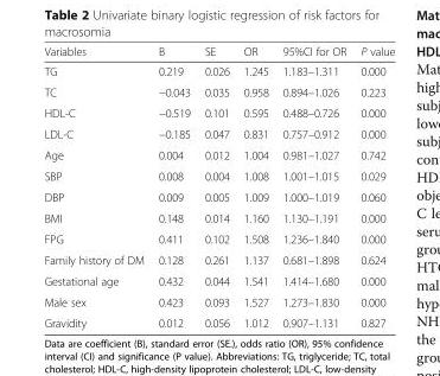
<table><thead><tr><td>Variables</td><td>B</td><td>SE</td><td>OR</td><td>95%CI for OR</td><td>P value</td></tr></thead><tbody><tr><td>TG</td><td>0.219</td><td>0.026</td><td>1.245</td><td>1.183–1.311</td><td>0.000</td></tr><tr><td>TC</td><td>−0.043</td><td>0.035</td><td>0.958</td><td>0.894–1.026</td><td>0.223</td></tr><tr><td>HDL-C</td><td>−0.519</td><td>0.101</td><td>0.595</td><td>0.488–0.726</td><td>0.000</td></tr><tr><td>LDL-C</td><td>−0.185</td><td>0.047</td><td>0.831</td><td>0.757–0.912</td><td>0.000</td></tr><tr><td>Age</td><td>0.004</td><td>0.012</td><td>1.004</td><td>0.981–1.027</td><td>0.742</td></tr><tr><td>SBP</td><td>0.008</td><td>0.004</td><td>1.008</td><td>1.001–1.015</td><td>0.029</td></tr><tr><td>DBP</td><td>0.009</td><td>0.005</td><td>1.009</td><td>1.000–1.019</td><td>0.060</td></tr><tr><td>BMI</td><td>0.148</td><td>0.014</td><td>1.160</td><td>1.130–1.191</td><td>0.000</td></tr><tr><td>FPG</td><td>0.411</td><td>0.102</td><td>1.508</td><td>1.236–1.840</td><td>0.000</td></tr><tr><td>Family history of DM</td><td>0.128</td><td>0.261</td><td>1.137</td><td>0.681–1.898</td><td>0.624</td></tr><tr><td>Gestational age</td><td>0.432</td><td>0.044</td><td>1.541</td><td>1.414–1.680</td><td>0.000</td></tr><tr><td>Male sex</td><td>0.423</td><td>0.093</td><td>1.527</td><td>1.273–1.830</td><td>0.000</td></tr><tr><td>Gravidity</td><td>0.012</td><td>0.056</td><td>1.012</td><td>0.907–1.131</td><td>0.827</td></tr></tbody></table>